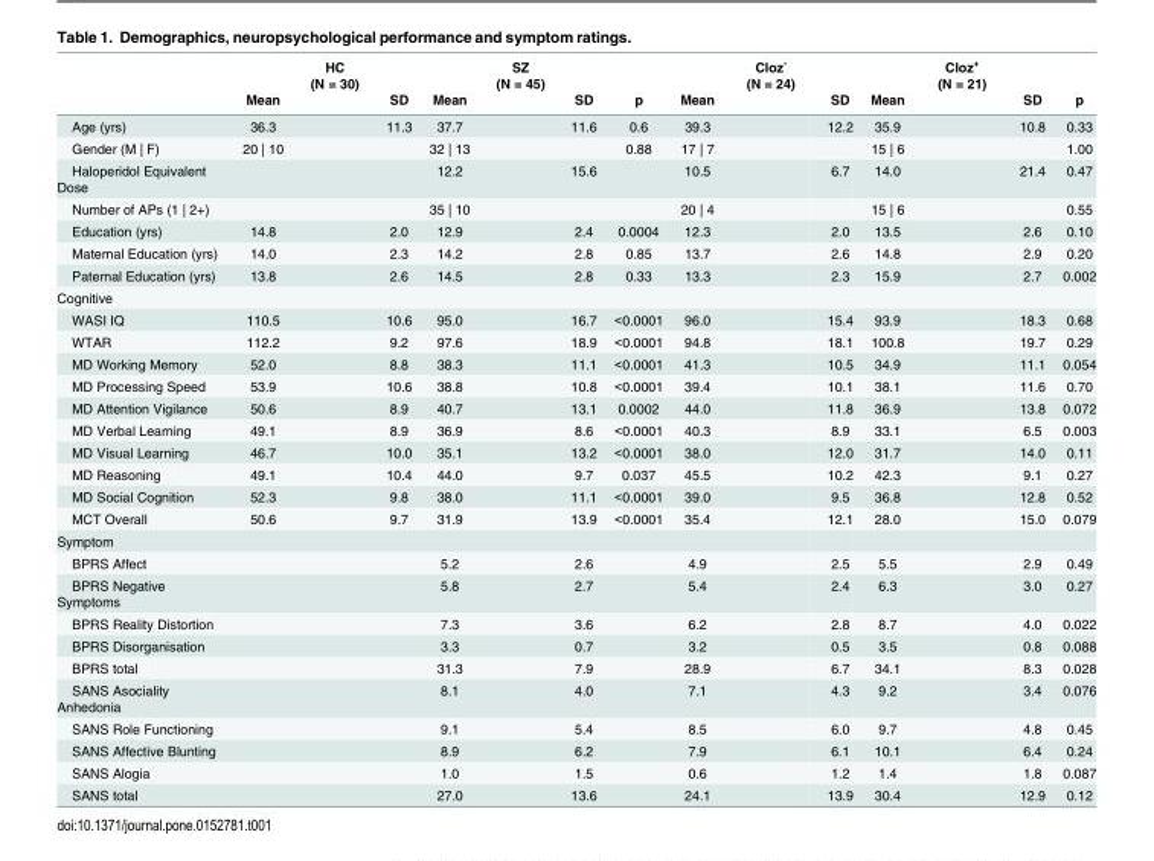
<table><thead><tr><td rowspan="2"></td><td rowspan="2">Mean</td><td rowspan="2">HC (N = 30)</td><td rowspan="2">SD</td><td rowspan="2">Mean</td><td rowspan="2">SZ (N = 45)</td><td rowspan="2">SD</td><td rowspan="2">p</td><td rowspan="2">Mean</td><td rowspan="2">Cloz<sup>-</sup> (N = 24)</td><td rowspan="2">SD</td><td rowspan="2">Mean</td><td rowspan="2">Cloz<sup>+</sup> (N = 21)</td><td rowspan="2">SD</td><td rowspan="2">p</td></tr><tr></tr></thead><tbody><tr><td>Age (yrs)</td><td>36.3</td><td></td><td>11.3</td><td>37.7</td><td></td><td>11.6</td><td>0.6</td><td>39.3</td><td></td><td>12.2</td><td>35.9</td><td></td><td>10.8</td><td>0.33</td></tr><tr><td>Gender (M | F)</td><td>20 | 10</td><td></td><td></td><td>32 | 13</td><td></td><td></td><td>0.88</td><td>17 | 7</td><td></td><td></td><td>15 | 6</td><td></td><td></td><td>1.00</td></tr><tr><td>Haloperidol Equivalent Dose</td><td></td><td></td><td></td><td>12.2</td><td></td><td>15.6</td><td></td><td>10.5</td><td></td><td>6.7</td><td>14.0</td><td></td><td>21.4</td><td>0.47</td></tr><tr><td>Number of APs (1 | 2+)</td><td></td><td></td><td></td><td>35 | 10</td><td></td><td></td><td></td><td>20 | 4</td><td></td><td></td><td>15 | 6</td><td></td><td></td><td>0.55</td></tr><tr><td>Education (yrs)</td><td>14.8</td><td></td><td>2.0</td><td>12.9</td><td></td><td>2.4</td><td>0.0004</td><td>12.3</td><td></td><td>2.0</td><td>13.5</td><td></td><td>2.6</td><td>0.10</td></tr><tr><td>Maternal Education (yrs)</td><td>14.0</td><td></td><td>2.3</td><td>14.2</td><td></td><td>2.8</td><td>0.85</td><td>13.7</td><td></td><td>2.6</td><td>14.8</td><td></td><td>2.9</td><td>0.20</td></tr><tr><td>Paternal Education (yrs)</td><td>13.8</td><td></td><td>2.6</td><td>14.5</td><td></td><td>2.8</td><td>0.33</td><td>13.3</td><td></td><td>2.3</td><td>15.9</td><td></td><td>2.7</td><td>0.002</td></tr><tr><td colspan="15">Cognitive</td></tr><tr><td>WASI IQ</td><td>110.5</td><td></td><td>10.6</td><td>95.0</td><td></td><td>16.7</td><td>&lt;0.0001</td><td>96.0</td><td></td><td>15.4</td><td>93.9</td><td></td><td>18.3</td><td>0.68</td></tr><tr><td>WTAR</td><td>112.2</td><td></td><td>9.2</td><td>97.6</td><td></td><td>18.9</td><td>&lt;0.0001</td><td>94.8</td><td></td><td>18.1</td><td>100.8</td><td></td><td>19.7</td><td>0.29</td></tr><tr><td>MD Working Memory</td><td>52.0</td><td></td><td>8.8</td><td>38.3</td><td></td><td>11.1</td><td>&lt;0.0001</td><td>41.3</td><td></td><td>10.5</td><td>34.9</td><td></td><td>11.1</td><td>0.054</td></tr><tr><td>MD Processing Speed</td><td>53.9</td><td></td><td>10.6</td><td>38.8</td><td></td><td>10.8</td><td>&lt;0.0001</td><td>39.4</td><td></td><td>10.1</td><td>38.1</td><td></td><td>11.6</td><td>0.70</td></tr><tr><td>MD Attention Vigilance</td><td>50.6</td><td></td><td>8.9</td><td>40.7</td><td></td><td>13.1</td><td>0.0002</td><td>44.0</td><td></td><td>11.8</td><td>36.9</td><td></td><td>13.8</td><td>0.072</td></tr><tr><td>MD Verbal Learning</td><td>49.1</td><td></td><td>8.9</td><td>36.9</td><td></td><td>8.6</td><td>&lt;0.0001</td><td>40.3</td><td></td><td>8.9</td><td>33.1</td><td></td><td>6.5</td><td>0.003</td></tr><tr><td>MD Visual Learning</td><td>46.7</td><td></td><td>10.0</td><td>35.1</td><td></td><td>13.2</td><td>&lt;0.0001</td><td>38.0</td><td></td><td>12.0</td><td>31.7</td><td></td><td>14.0</td><td>0.11</td></tr><tr><td>MD Reasoning</td><td>49.1</td><td></td><td>10.4</td><td>44.0</td><td></td><td>9.7</td><td>0.037</td><td>45.5</td><td></td><td>10.2</td><td>42.3</td><td></td><td>9.1</td><td>0.27</td></tr><tr><td>MD Social Cognition</td><td>52.3</td><td></td><td>9.8</td><td>38.0</td><td></td><td>11.1</td><td>&lt;0.0001</td><td>39.0</td><td></td><td>9.5</td><td>36.8</td><td></td><td>12.8</td><td>0.52</td></tr><tr><td>MCT Overall</td><td>50.6</td><td></td><td>9.7</td><td>31.9</td><td></td><td>13.9</td><td>&lt;0.0001</td><td>35.4</td><td></td><td>12.1</td><td>28.0</td><td></td><td>15.0</td><td>0.079</td></tr><tr><td colspan="15">Symptom</td></tr><tr><td>BPRS Affect</td><td></td><td></td><td></td><td>5.2</td><td></td><td>2.6</td><td></td><td>4.9</td><td></td><td>2.5</td><td>5.5</td><td></td><td>2.9</td><td>0.49</td></tr><tr><td>BPRS Negative Symptoms</td><td></td><td></td><td></td><td>5.8</td><td></td><td>2.7</td><td></td><td>5.4</td><td></td><td>2.4</td><td>6.3</td><td></td><td>3.0</td><td>0.27</td></tr><tr><td>BPRS Reality Distortion</td><td></td><td></td><td></td><td>7.3</td><td></td><td>3.6</td><td></td><td>6.2</td><td></td><td>2.8</td><td>8.7</td><td></td><td>4.0</td><td>0.022</td></tr><tr><td>BPRS Disorganisation</td><td></td><td></td><td></td><td>3.3</td><td></td><td>0.7</td><td></td><td>3.2</td><td></td><td>0.5</td><td>3.5</td><td></td><td>0.8</td><td>0.088</td></tr><tr><td>BPRS total</td><td></td><td></td><td></td><td>31.3</td><td></td><td>7.9</td><td></td><td>28.9</td><td></td><td>6.7</td><td>34.1</td><td></td><td>8.3</td><td>0.028</td></tr><tr><td>SANS Asociality Anhedonia</td><td></td><td></td><td></td><td>8.1</td><td></td><td>4.0</td><td></td><td>7.1</td><td></td><td>4.3</td><td>9.2</td><td></td><td>3.4</td><td>0.076</td></tr><tr><td>SANS Role Functioning</td><td></td><td></td><td></td><td>9.1</td><td></td><td>5.4</td><td></td><td>8.5</td><td></td><td>6.0</td><td>9.7</td><td></td><td>4.8</td><td>0.45</td></tr><tr><td>SANS Affective Blunting</td><td></td><td></td><td></td><td>8.9</td><td></td><td>6.2</td><td></td><td>7.9</td><td></td><td>6.1</td><td>10.1</td><td></td><td>6.4</td><td>0.24</td></tr><tr><td>SANS Alogia</td><td></td><td></td><td></td><td>1.0</td><td></td><td>1.5</td><td></td><td>0.6</td><td></td><td>1.2</td><td>1.4</td><td></td><td>1.8</td><td>0.087</td></tr><tr><td>SANS total</td><td></td><td></td><td></td><td>27.0</td><td></td><td>13.6</td><td></td><td>24.1</td><td></td><td>13.9</td><td>30.4</td><td></td><td>12.9</td><td>0.12</td></tr></tbody></table>